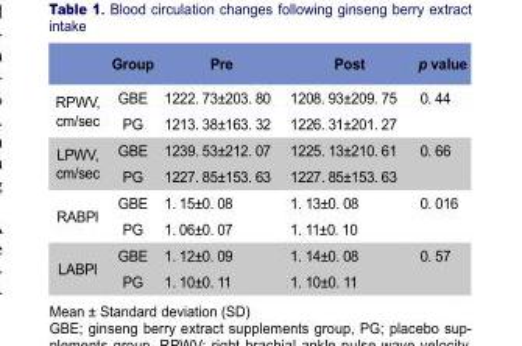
<table><thead><tr><td></td><td>Group</td><td>Pre</td><td>Post</td><td>p value</td></tr></thead><tbody><tr><td rowspan="2">RPWV, cm/sec</td><td>GBE</td><td>1222. 73±203. 80</td><td>1208. 93±209. 75</td><td rowspan="2">0. 44</td></tr><tr><td>PG</td><td>1213. 38±163. 32</td><td>1226. 31±201. 27</td></tr><tr><td rowspan="2">LPWV, cm/sec</td><td>GBE</td><td>1239. 53±212. 07</td><td>1225. 13±210. 61</td><td rowspan="2">0. 66</td></tr><tr><td>PG</td><td>1227. 85±153. 63</td><td>1227. 85±153. 63</td></tr><tr><td rowspan="2">RABPI</td><td>GBE</td><td>1. 15±0. 08</td><td>1. 13±0. 08</td><td rowspan="2">0. 016</td></tr><tr><td>PG</td><td>1. 06±0. 07</td><td>1. 11±0. 10</td></tr><tr><td rowspan="2">LABPI</td><td>GBE</td><td>1. 12±0. 09</td><td>1. 14±0. 08</td><td rowspan="2">0. 57</td></tr><tr><td>PG</td><td>1. 10±0. 11</td><td>1. 10±0. 11</td></tr></tbody></table>